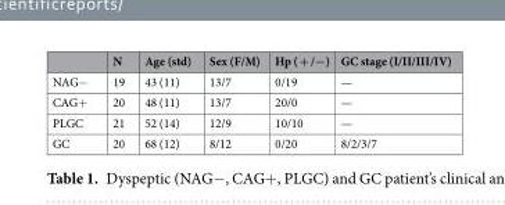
<table><thead><tr><td></td><td>N</td><td>Age (std)</td><td>Sex (F/M)</td><td>Hp ( + /−)</td><td>GC stage (I/II/III/IV)</td></tr></thead><tbody><tr><td>NAG−</td><td>19</td><td>43 (11)</td><td>13/7</td><td>0/19</td><td>—</td></tr><tr><td>CAG+</td><td>20</td><td>48 (11)</td><td>13/7</td><td>20/0</td><td>—</td></tr><tr><td>PLGC</td><td>21</td><td>52 (14)</td><td>12/9</td><td>10/10</td><td>—</td></tr><tr><td>GC</td><td>20</td><td>68 (12)</td><td>8/12</td><td>0/20</td><td>8/2/3/7</td></tr></tbody></table>